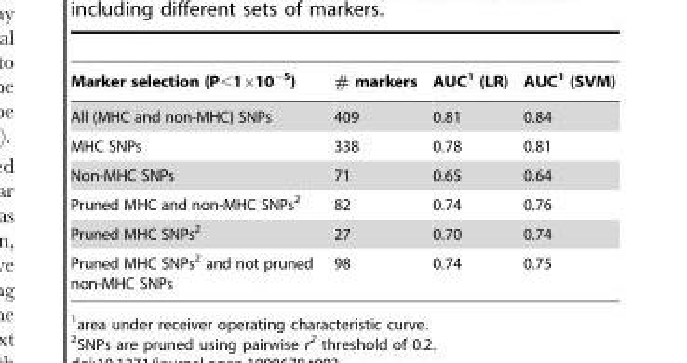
<table><thead><tr><td>Marker selection (P&lt;1×10<sup>−5</sup>)</td><td># markers</td><td>AUC<sup>1</sup> (LR)</td><td>AUC<sup>1</sup> (SVM)</td></tr></thead><tbody><tr><td>All (MHC and non-MHC) SNPs</td><td>409</td><td>0.81</td><td>0.84</td></tr><tr><td>MHC SNPs</td><td>338</td><td>0.78</td><td>0.81</td></tr><tr><td>Non-MHC SNPs</td><td>71</td><td>0.65</td><td>0.64</td></tr><tr><td>Pruned MHC and non-MHC SNPs<sup>2</sup></td><td>82</td><td>0.74</td><td>0.76</td></tr><tr><td>Pruned MHC SNPs<sup>2</sup></td><td>27</td><td>0.70</td><td>0.74</td></tr><tr><td>Pruned MHC SNPs<sup>2</sup> and not pruned non-MHC SNPs</td><td>98</td><td>0.74</td><td>0.75</td></tr></tbody></table>